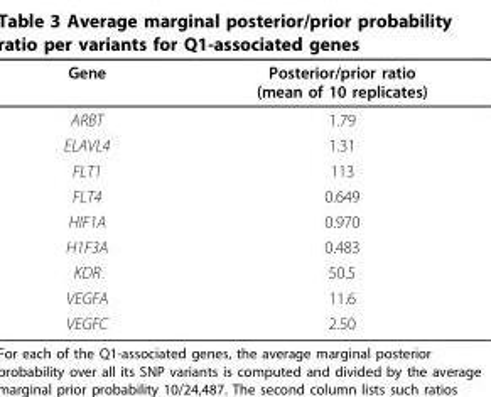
<table><thead><tr><td>Gene</td><td>Posterior/prior ratio (mean of 10 replicates)</td></tr></thead><tbody><tr><td>ARBT</td><td>1.79</td></tr><tr><td>ELAVL4</td><td>1.31</td></tr><tr><td>FLT1</td><td>113</td></tr><tr><td>FLT4</td><td>0.649</td></tr><tr><td>HIF1A</td><td>0.970</td></tr><tr><td>H1F3A</td><td>0.483</td></tr><tr><td>KDR</td><td>50.5</td></tr><tr><td>VEGFA</td><td>11.6</td></tr><tr><td>VEGFC</td><td>2.50</td></tr></tbody></table>